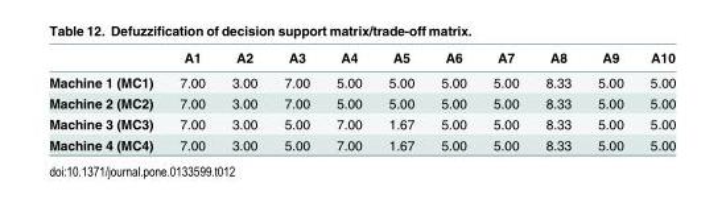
<table><thead><tr><td></td><td>A1</td><td>A2</td><td>A3</td><td>A4</td><td>A5</td><td>A6</td><td>A7</td><td>A8</td><td>A9</td><td>A10</td></tr></thead><tbody><tr><td>Machine 1 (MC1)</td><td>7.00</td><td>3.00</td><td>7.00</td><td>5.00</td><td>5.00</td><td>5.00</td><td>5.00</td><td>8.33</td><td>5.00</td><td>5.00</td></tr><tr><td>Machine 2 (MC2)</td><td>7.00</td><td>3.00</td><td>7.00</td><td>5.00</td><td>5.00</td><td>5.00</td><td>5.00</td><td>8.33</td><td>5.00</td><td>5.00</td></tr><tr><td>Machine 3 (MC3)</td><td>7.00</td><td>3.00</td><td>5.00</td><td>7.00</td><td>1.67</td><td>5.00</td><td>5.00</td><td>8.33</td><td>5.00</td><td>5.00</td></tr><tr><td>Machine 4 (MC4)</td><td>7.00</td><td>3.00</td><td>5.00</td><td>7.00</td><td>1.67</td><td>5.00</td><td>5.00</td><td>8.33</td><td>5.00</td><td>5.00</td></tr></tbody></table>